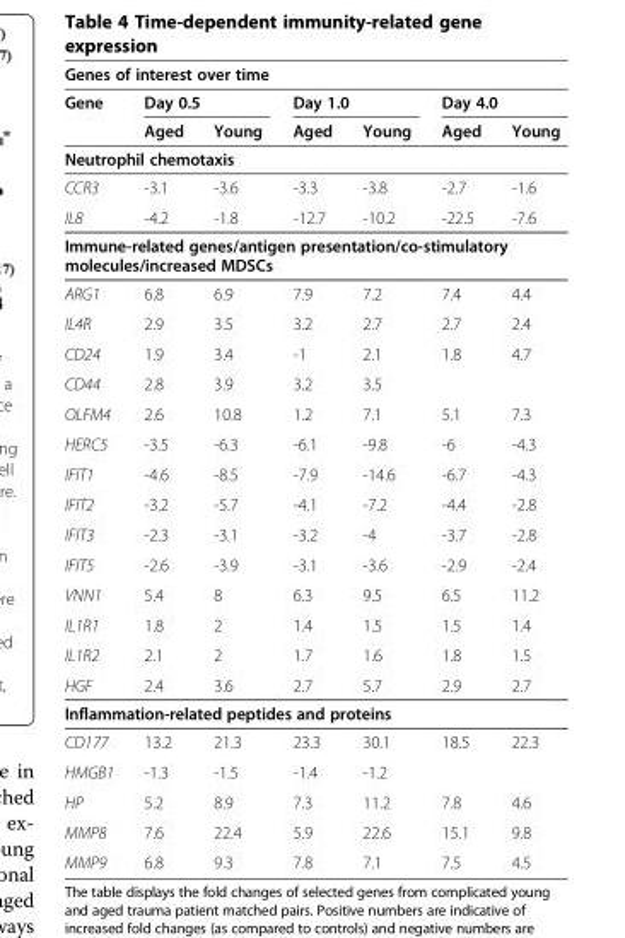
<table><thead><tr><td colspan="7">Genes of interest over time</td></tr><tr><td rowspan="2">Gene</td><td colspan="2">Day 0.5</td><td colspan="2">Day 1.0</td><td colspan="2">Day 4.0</td></tr><tr><td>Aged</td><td>Young</td><td>Aged</td><td>Young</td><td>Aged</td><td>Young</td></tr></thead><tbody><tr><td colspan="7">Neutrophil chemotaxis</td></tr><tr><td>CCR3</td><td>-3.1</td><td>-3.6</td><td>-3.3</td><td>-3.8</td><td>-2.7</td><td>-1.6</td></tr><tr><td>IL8</td><td>-4.2</td><td>-1.8</td><td>-12.7</td><td>-10.2</td><td>-22.5</td><td>-7.6</td></tr><tr><td colspan="7">Immune-related genes/antigen presentation/co-stimulatory molecules/increased MDSCs</td></tr><tr><td>ARG1</td><td>6.8</td><td>6.9</td><td>7.9</td><td>7.2</td><td>7.4</td><td>4.4</td></tr><tr><td>IL4R</td><td>2.9</td><td>3.5</td><td>3.2</td><td>2.7</td><td>2.7</td><td>2.4</td></tr><tr><td>CD24</td><td>1.9</td><td>3.4</td><td>-1</td><td>2.1</td><td>1.8</td><td>4.7</td></tr><tr><td>CD44</td><td>2.8</td><td>3.9</td><td>3.2</td><td>3.5</td><td></td><td></td></tr><tr><td>OLFM4</td><td>2.6</td><td>10.8</td><td>1.2</td><td>7.1</td><td>5.1</td><td>7.3</td></tr><tr><td>HERC5</td><td>-3.5</td><td>-6.3</td><td>-6.1</td><td>-9.8</td><td>-6</td><td>-4.3</td></tr><tr><td>IFIT1</td><td>-4.6</td><td>-8.5</td><td>-7.9</td><td>-14.6</td><td>-6.7</td><td>-4.3</td></tr><tr><td>IFIT2</td><td>-3.2</td><td>-5.7</td><td>-4.1</td><td>-7.2</td><td>-4.4</td><td>-2.8</td></tr><tr><td>IFIT3</td><td>-2.3</td><td>-3.1</td><td>-3.2</td><td>-4</td><td>-3.7</td><td>-2.8</td></tr><tr><td>IFIT5</td><td>-2.6</td><td>-3.9</td><td>-3.1</td><td>-3.6</td><td>-2.9</td><td>-2.4</td></tr><tr><td>VNN1</td><td>5.4</td><td>8</td><td>6.3</td><td>9.5</td><td>6.5</td><td>11.2</td></tr><tr><td>IL1R1</td><td>1.8</td><td>2</td><td>1.4</td><td>1.5</td><td>1.5</td><td>1.4</td></tr><tr><td>IL1R2</td><td>2.1</td><td>2</td><td>1.7</td><td>1.6</td><td>1.8</td><td>1.5</td></tr><tr><td>HGF</td><td>2.4</td><td>3.6</td><td>2.7</td><td>5.7</td><td>2.9</td><td>2.7</td></tr><tr><td colspan="7">Inflammation-related peptides and proteins</td></tr><tr><td>CD177</td><td>13.2</td><td>21.3</td><td>23.3</td><td>30.1</td><td>18.5</td><td>22.3</td></tr><tr><td>HMGB1</td><td>-1.3</td><td>-1.5</td><td>-1.4</td><td>-1.2</td><td></td><td></td></tr><tr><td>HP</td><td>5.2</td><td>8.9</td><td>7.3</td><td>11.2</td><td>7.8</td><td>4.6</td></tr><tr><td>MMP8</td><td>7.6</td><td>22.4</td><td>5.9</td><td>22.6</td><td>15.1</td><td>9.8</td></tr><tr><td>MMP9</td><td>6.8</td><td>9.3</td><td>7.8</td><td>7.1</td><td>7.5</td><td>4.5</td></tr></tbody></table>